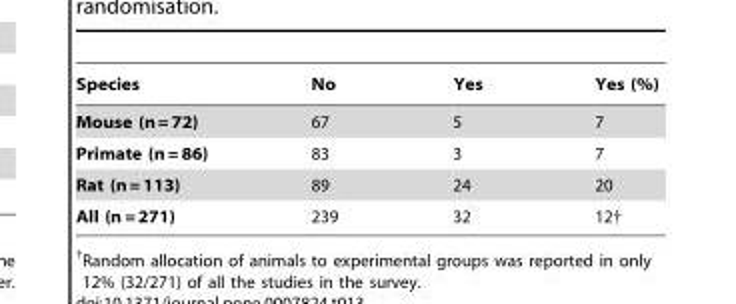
<table><thead><tr><td>Species</td><td>No</td><td>Yes</td><td>Yes (%)</td></tr></thead><tbody><tr><td>Mouse (n = 72)</td><td>67</td><td>5</td><td>7</td></tr><tr><td>Primate (n = 86)</td><td>83</td><td>3</td><td>7</td></tr><tr><td>Rat (n = 113)</td><td>89</td><td>24</td><td>20</td></tr><tr><td>All (n = 271)</td><td>239</td><td>32</td><td>12†</td></tr></tbody></table>